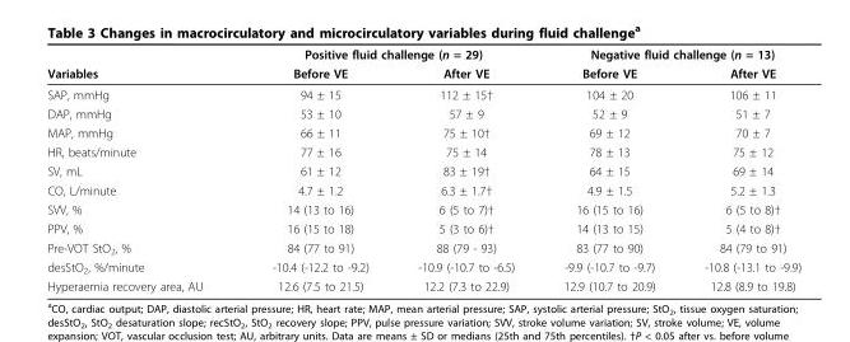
<table><thead><tr><td rowspan="2">Variables</td><td colspan="2">Positive fluid challenge (n = 29)</td><td colspan="2">Negative fluid challenge (n = 13)</td></tr><tr><td>Before VE</td><td>After VE</td><td>Before VE</td><td>After VE</td></tr></thead><tbody><tr><td>SAP, mmHg</td><td>94 ± 15</td><td>112 ± 15†</td><td>104 ± 20</td><td>106 ± 11</td></tr><tr><td>DAP, mmHg</td><td>53 ± 10</td><td>57 ± 9</td><td>52 ± 9</td><td>51 ± 7</td></tr><tr><td>MAP, mmHg</td><td>66 ± 11</td><td>75 ± 10†</td><td>69 ± 12</td><td>70 ± 7</td></tr><tr><td>HR, beats/minute</td><td>77 ± 16</td><td>75 ± 14</td><td>78 ± 13</td><td>75 ± 12</td></tr><tr><td>SV, mL</td><td>61 ± 12</td><td>83 ± 19†</td><td>64 ± 15</td><td>69 ± 14</td></tr><tr><td>CO, L/minute</td><td>4.7 ± 1.2</td><td>6.3 ± 1.7†</td><td>4.9 ± 1.5</td><td>5.2 ± 1.3</td></tr><tr><td>SVV, %</td><td>14 (13 to 16)</td><td>6 (5 to 7)†</td><td>16 (15 to 16)</td><td>6 (5 to 8)†</td></tr><tr><td>PPV, %</td><td>16 (15 to 18)</td><td>5 (3 to 6)†</td><td>14 (13 to 15)</td><td>5 (4 to 8)†</td></tr><tr><td>Pre-VOT StO<sub>2</sub>, %</td><td>84 (77 to 91)</td><td>88 (79 - 93)</td><td>83 (77 to 90)</td><td>84 (79 to 91)</td></tr><tr><td>desStO<sub>2</sub>, %/minute</td><td>-10.4 (-12.2 to -9.2)</td><td>-10.9 (-10.7 to -6.5)</td><td>-9.9 (-10.7 to -9.7)</td><td>-10.8 (-13.1 to -9.9)</td></tr><tr><td>Hyperaemia recovery area, AU</td><td>12.6 (7.5 to 21.5)</td><td>12.2 (7.3 to 22.9)</td><td>12.9 (10.7 to 20.9)</td><td>12.8 (8.9 to 19.8)</td></tr></tbody></table>